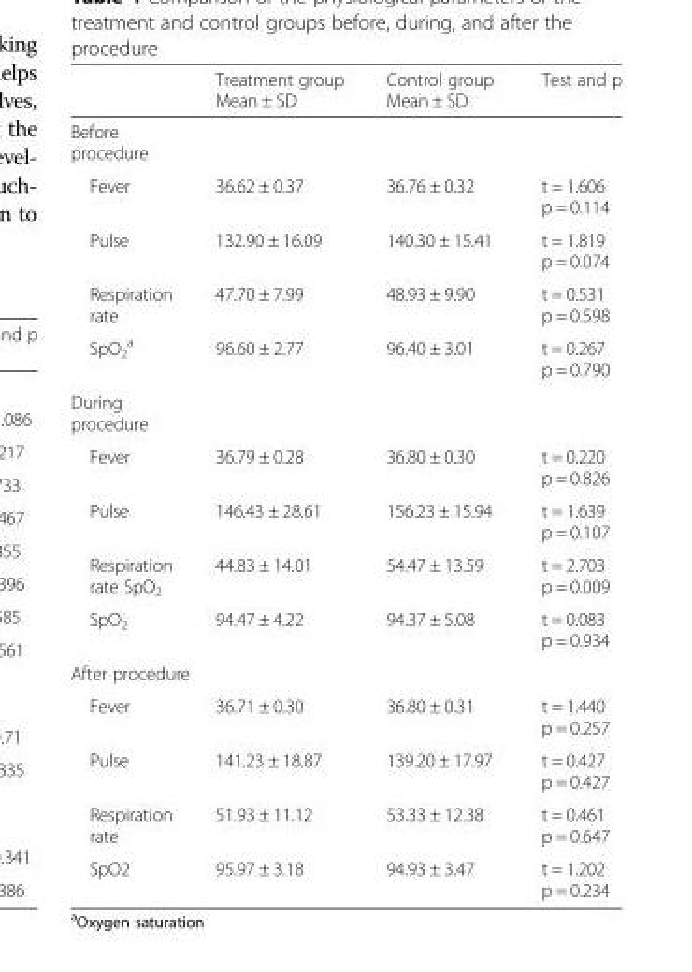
<table><thead><tr><td></td><td>Treatment group Mean ± SD</td><td>Control group Mean ± SD</td><td>Test and p</td></tr></thead><tbody><tr><td colspan="4">Before procedure</td></tr><tr><td>Fever</td><td>36.62 ± 0.37</td><td>36.76 ± 0.32</td><td>t = 1.606 p = 0.114</td></tr><tr><td>Pulse</td><td>132.90 ± 16.09</td><td>140.30 ± 15.41</td><td>t = 1.819 p = 0.074</td></tr><tr><td>Respiration rate</td><td>47.70 ± 7.99</td><td>48.93 ± 9.90</td><td>t = 0.531 p = 0.598</td></tr><tr><td>SpO<sub>2</sub> <sup>a</sup></td><td>96.60 ± 2.77</td><td>96.40 ± 3.01</td><td>t = 0.267 p = 0.790</td></tr><tr><td colspan="4">During procedure</td></tr><tr><td>Fever</td><td>36.79 ± 0.28</td><td>36.80 ± 0.30</td><td>t = 0.220 p = 0.826</td></tr><tr><td>Pulse</td><td>146.43 ± 28.61</td><td>156.23 ± 15.94</td><td>t = 1.639 p = 0.107</td></tr><tr><td>Respiration rate SpO<sub>2</sub></td><td>44.83 ± 14.01</td><td>54.47 ± 13.59</td><td>t = 2.703 p = 0.009</td></tr><tr><td>SpO<sub>2</sub></td><td>94.47 ± 4.22</td><td>94.37 ± 5.08</td><td>t = 0.083 p = 0.934</td></tr><tr><td colspan="4">After procedure</td></tr><tr><td>Fever</td><td>36.71 ± 0.30</td><td>36.80 ± 0.31</td><td>t = 1.440 p = 0.257</td></tr><tr><td>Pulse</td><td>141.23 ± 18.87</td><td>139.20 ± 17.97</td><td>t = 0.427 p = 0.427</td></tr><tr><td>Respiration rate</td><td>51.93 ± 11.12</td><td>53.33 ± 12.38</td><td>t = 0.461 p = 0.647</td></tr><tr><td>SpO2</td><td>95.97 ± 3.18</td><td>94.93 ± 3.47</td><td>t = 1.202 p = 0.234</td></tr></tbody></table>